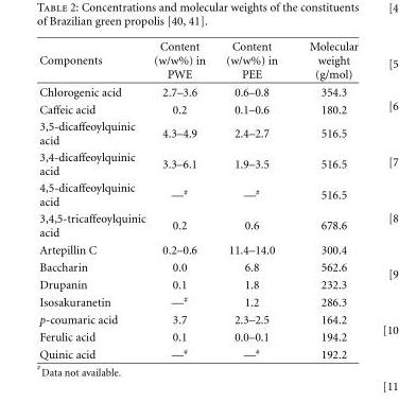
<table><thead><tr><td>Components</td><td>Content (w/w%) in PWE</td><td>Content (w/w%) in PEE</td><td>Molecular weight (g/mol)</td></tr></thead><tbody><tr><td>Chlorogenic acid</td><td>2.7–3.6</td><td>0.6–0.8</td><td>354.3</td></tr><tr><td>Caffeic acid</td><td>0.2</td><td>0.1–0.6</td><td>180.2</td></tr><tr><td>3,5-dicaffeoylquinic acid</td><td>4.3–4.9</td><td>2.4–2.7</td><td>516.5</td></tr><tr><td>3,4-dicaffeoylquinic acid</td><td>3.3–6.1</td><td>1.9–3.5</td><td>516.5</td></tr><tr><td>4,5-dicaffeoylquinic acid</td><td>—<sup>#</sup></td><td>—<sup>#</sup></td><td>516.5</td></tr><tr><td>3,4,5-tricaffeoylquinic acid</td><td>0.2</td><td>0.6</td><td>678.6</td></tr><tr><td>Artepillin C</td><td>0.2–0.6</td><td>11.4–14.0</td><td>300.4</td></tr><tr><td>Baccharin</td><td>0.0</td><td>6.8</td><td>562.6</td></tr><tr><td>Drupanin</td><td>0.1</td><td>1.8</td><td>232.3</td></tr><tr><td>Isosakuranetin</td><td>—<sup>#</sup></td><td>1.2</td><td>286.3</td></tr><tr><td>p-coumaric acid</td><td>3.7</td><td>2.3–2.5</td><td>164.2</td></tr><tr><td>Ferulic acid</td><td>0.1</td><td>0.0–0.1</td><td>194.2</td></tr><tr><td>Quinic acid</td><td>—<sup>#</sup></td><td>—<sup>#</sup></td><td>192.2</td></tr></tbody></table>